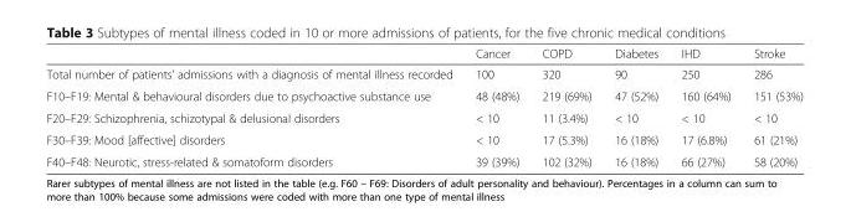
<table><thead><tr><td></td><td>Cancer</td><td>COPD</td><td>Diabetes</td><td>IHD</td><td>Stroke</td></tr></thead><tbody><tr><td>Total number of patients’ admissions with a diagnosis of mental illness recorded</td><td>100</td><td>320</td><td>90</td><td>250</td><td>286</td></tr><tr><td>F10–F19: Mental &amp; behavioural disorders due to psychoactive substance use</td><td>48 (48%)</td><td>219 (69%)</td><td>47 (52%)</td><td>160 (64%)</td><td>151 (53%)</td></tr><tr><td>F20–F29: Schizophrenia, schizotypal &amp; delusional disorders</td><td>&lt; 10</td><td>11 (3.4%)</td><td>&lt; 10</td><td>&lt; 10</td><td>&lt; 10</td></tr><tr><td>F30–F39: Mood [affective] disorders</td><td>&lt; 10</td><td>17 (5.3%)</td><td>16 (18%)</td><td>17 (6.8%)</td><td>61 (21%)</td></tr><tr><td>F40–F48: Neurotic, stress-related &amp; somatoform disorders</td><td>39 (39%)</td><td>102 (32%)</td><td>16 (18%)</td><td>66 (27%)</td><td>58 (20%)</td></tr></tbody></table>